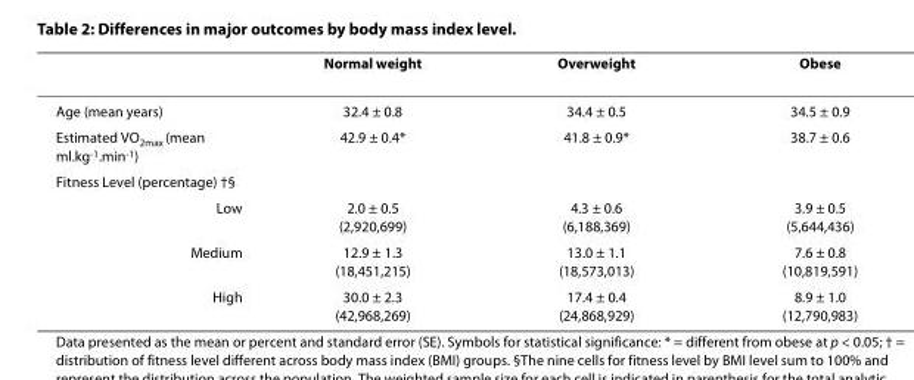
<table><thead><tr><td></td><td>Normal weight</td><td>Overweight</td><td>Obese</td></tr></thead><tbody><tr><td>Age (mean years)</td><td>32.4 ± 0.8</td><td>34.4 ± 0.5</td><td>34.5 ± 0.9</td></tr><tr><td>Estimated VO<sub>2max</sub> (mean ml.kg<sup>-1</sup>.min<sup>-1</sup>)</td><td>42.9 ± 0.4*</td><td>41.8 ± 0.9*</td><td>38.7 ± 0.6</td></tr><tr><td colspan="4">Fitness Level (percentage) †§</td></tr><tr><td>Low</td><td>2.0 ± 0.5 (2,920,699)</td><td>4.3 ± 0.6 (6,188,369)</td><td>3.9 ± 0.5 (5,644,436)</td></tr><tr><td>Medium</td><td>12.9 ± 1.3 (18,451,215)</td><td>13.0 ± 1.1 (18,573,013)</td><td>7.6 ± 0.8 (10,819,591)</td></tr><tr><td>High</td><td>30.0 ± 2.3 (42,968,269)</td><td>17.4 ± 0.4 (24,868,929)</td><td>8.9 ± 1.0 (12,790,983)</td></tr></tbody></table>